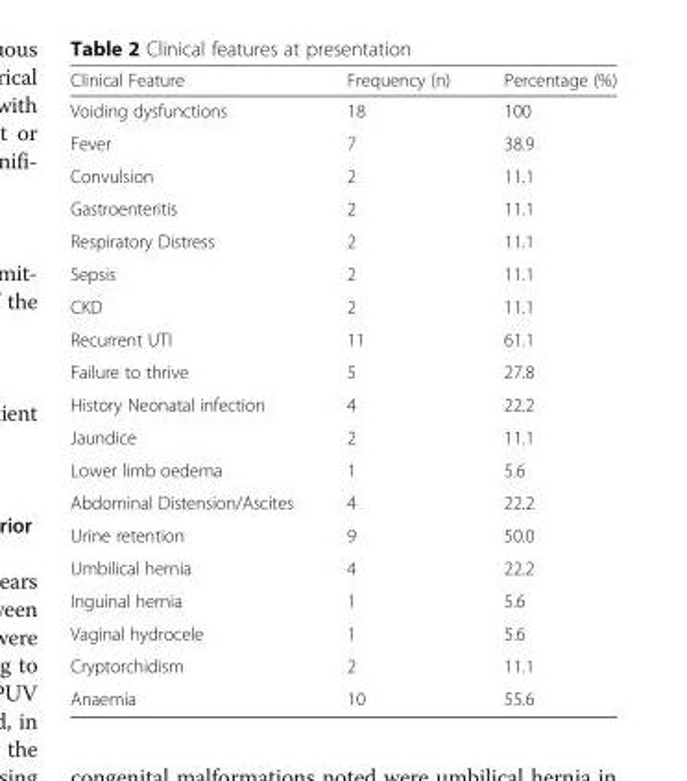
<table><thead><tr><td>Clinical Feature</td><td>Frequency (n)</td><td>Percentage (%)</td></tr></thead><tbody><tr><td>Voiding dysfunctions</td><td>18</td><td>100</td></tr><tr><td>Fever</td><td>7</td><td>38.9</td></tr><tr><td>Convulsion</td><td>2</td><td>11.1</td></tr><tr><td>Gastroenteritis</td><td>2</td><td>11.1</td></tr><tr><td>Respiratory Distress</td><td>2</td><td>11.1</td></tr><tr><td>Sepsis</td><td>2</td><td>11.1</td></tr><tr><td>CKD</td><td>2</td><td>11.1</td></tr><tr><td>Recurrent UTI</td><td>11</td><td>61.1</td></tr><tr><td>Failure to thrive</td><td>5</td><td>27.8</td></tr><tr><td>History Neonatal infection</td><td>4</td><td>22.2</td></tr><tr><td>Jaundice</td><td>2</td><td>11.1</td></tr><tr><td>Lower limb oedema</td><td>1</td><td>5.6</td></tr><tr><td>Abdominal Distension/Ascites</td><td>4</td><td>22.2</td></tr><tr><td>Urine retention</td><td>9</td><td>50.0</td></tr><tr><td>Umbilical hernia</td><td>4</td><td>22.2</td></tr><tr><td>Inguinal hernia</td><td>1</td><td>5.6</td></tr><tr><td>Vaginal hydrocele</td><td>1</td><td>5.6</td></tr><tr><td>Cryptorchidism</td><td>2</td><td>11.1</td></tr><tr><td>Anaemia</td><td>10</td><td>55.6</td></tr></tbody></table>